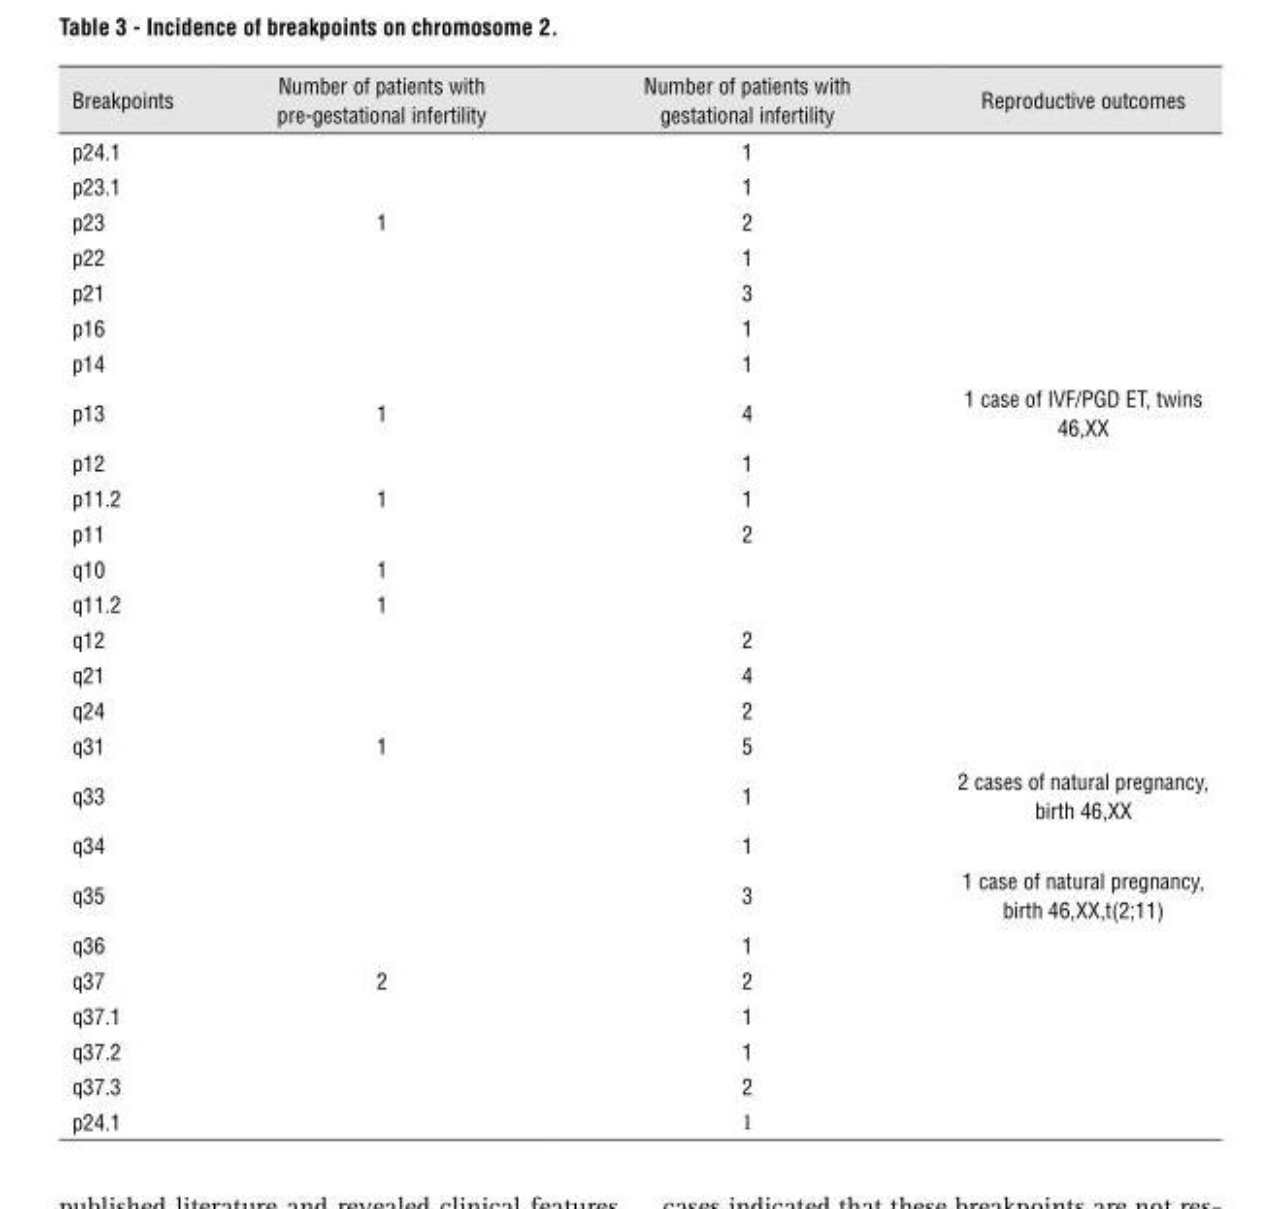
<table><thead><tr><td>Breakpoints</td><td>Number of patients with pre-gestational infertility</td><td>Number of patients with gestational infertility</td><td>Reproductive outcomes</td></tr></thead><tbody><tr><td>p24.1</td><td></td><td>1</td><td></td></tr><tr><td>p23.1</td><td></td><td>1</td><td></td></tr><tr><td>p23</td><td>1</td><td>2</td><td></td></tr><tr><td>p22</td><td></td><td>1</td><td></td></tr><tr><td>p21</td><td></td><td>3</td><td></td></tr><tr><td>p16</td><td></td><td>1</td><td></td></tr><tr><td>p14</td><td></td><td>1</td><td></td></tr><tr><td>p13</td><td>1</td><td>4</td><td>1 case of IVF/PGD ET, twins 46,XX</td></tr><tr><td>p12</td><td></td><td>1</td><td></td></tr><tr><td>p11.2</td><td>1</td><td>1</td><td></td></tr><tr><td>p11</td><td></td><td>2</td><td></td></tr><tr><td>q10</td><td>1</td><td></td><td></td></tr><tr><td>q11.2</td><td>1</td><td></td><td></td></tr><tr><td>q12</td><td></td><td>2</td><td></td></tr><tr><td>q21</td><td></td><td>4</td><td></td></tr><tr><td>q24</td><td></td><td>2</td><td></td></tr><tr><td>q31</td><td>1</td><td>5</td><td></td></tr><tr><td>q33</td><td></td><td>1</td><td>2 cases of natural pregnancy, birth 46,XX</td></tr><tr><td>q34</td><td></td><td>1</td><td></td></tr><tr><td>q35</td><td></td><td>3</td><td>1 case of natural pregnancy, birth 46,XX,t(2;11)</td></tr><tr><td>q36</td><td></td><td>1</td><td></td></tr><tr><td>q37</td><td>2</td><td>2</td><td></td></tr><tr><td>q37.1</td><td></td><td>1</td><td></td></tr><tr><td>q37.2</td><td></td><td>1</td><td></td></tr><tr><td>q37.3</td><td></td><td>2</td><td></td></tr><tr><td>p24.1</td><td></td><td>1</td><td></td></tr></tbody></table>